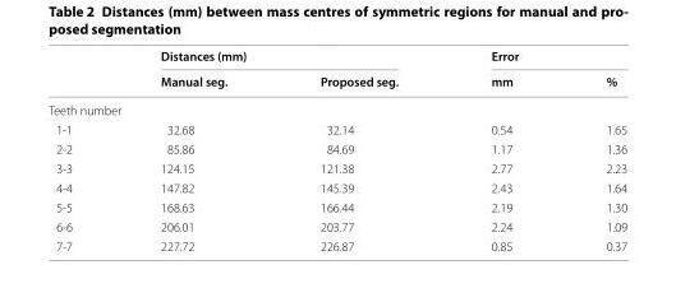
<table><thead><tr><td rowspan="2"></td><td colspan="2">Distances (mm)</td><td colspan="2">Error</td></tr><tr><td>Manual seg.</td><td>Proposed seg.</td><td>mm</td><td>%</td></tr></thead><tbody><tr><td colspan="5">Teeth number</td></tr><tr><td>1-1</td><td>32.68</td><td>32.14</td><td>0.54</td><td>1.65</td></tr><tr><td>2-2</td><td>85.86</td><td>84.69</td><td>1.17</td><td>1.36</td></tr><tr><td>3-3</td><td>124.15</td><td>121.38</td><td>2.77</td><td>2.23</td></tr><tr><td>4-4</td><td>147.82</td><td>145.39</td><td>2.43</td><td>1.64</td></tr><tr><td>5-5</td><td>168.63</td><td>166.44</td><td>2.19</td><td>1.30</td></tr><tr><td>6-6</td><td>206.01</td><td>203.77</td><td>2.24</td><td>1.09</td></tr><tr><td>7-7</td><td>227.72</td><td>226.87</td><td>0.85</td><td>0.37</td></tr></tbody></table>